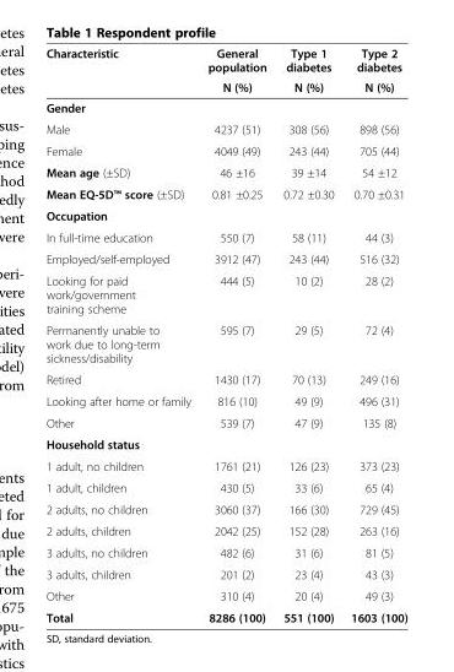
<table><thead><tr><td rowspan="2">Characteristic</td><td rowspan="2">General population N (%)</td><td rowspan="2">Type 1 diabetes N (%)</td><td rowspan="2">Type 2 diabetes N (%)</td></tr><tr></tr></thead><tbody><tr><td colspan="4">Gender</td></tr><tr><td>Male</td><td>4237 (51)</td><td>308 (56)</td><td>898 (56)</td></tr><tr><td>Female</td><td>4049 (49)</td><td>243 (44)</td><td>705 (44)</td></tr><tr><td>Mean age (±SD)</td><td>46 ±16</td><td>39 ±14</td><td>54 ±12</td></tr><tr><td>Mean EQ-5D™ score (±SD)</td><td>0.81 ±0.25</td><td>0.72 ±0.30</td><td>0.70 ±0.31</td></tr><tr><td colspan="4">Occupation</td></tr><tr><td>In full-time education</td><td>550 (7)</td><td>58 (11)</td><td>44 (3)</td></tr><tr><td>Employed/self-employed</td><td>3912 (47)</td><td>243 (44)</td><td>516 (32)</td></tr><tr><td>Looking for paid work/government training scheme</td><td>444 (5)</td><td>10 (2)</td><td>28 (2)</td></tr><tr><td>Permanently unable to work due to long-term sickness/disability</td><td>595 (7)</td><td>29 (5)</td><td>72 (4)</td></tr><tr><td>Retired</td><td>1430 (17)</td><td>70 (13)</td><td>249 (16)</td></tr><tr><td>Looking after home or family</td><td>816 (10)</td><td>49 (9)</td><td>496 (31)</td></tr><tr><td>Other</td><td>539 (7)</td><td>47 (9)</td><td>135 (8)</td></tr><tr><td colspan="4">Household status</td></tr><tr><td>1 adult, no children</td><td>1761 (21)</td><td>126 (23)</td><td>373 (23)</td></tr><tr><td>1 adult, children</td><td>430 (5)</td><td>33 (6)</td><td>65 (4)</td></tr><tr><td>2 adults, no children</td><td>3060 (37)</td><td>166 (30)</td><td>729 (45)</td></tr><tr><td>2 adults, children</td><td>2042 (25)</td><td>152 (28)</td><td>263 (16)</td></tr><tr><td>3 adults, no children</td><td>482 (6)</td><td>31 (6)</td><td>81 (5)</td></tr><tr><td>3 adults, children</td><td>201 (2)</td><td>23 (4)</td><td>43 (3)</td></tr><tr><td>Other</td><td>310 (4)</td><td>20 (4)</td><td>49 (3)</td></tr><tr><td>Total</td><td>8286 (100)</td><td>551 (100)</td><td>1603 (100)</td></tr></tbody></table>